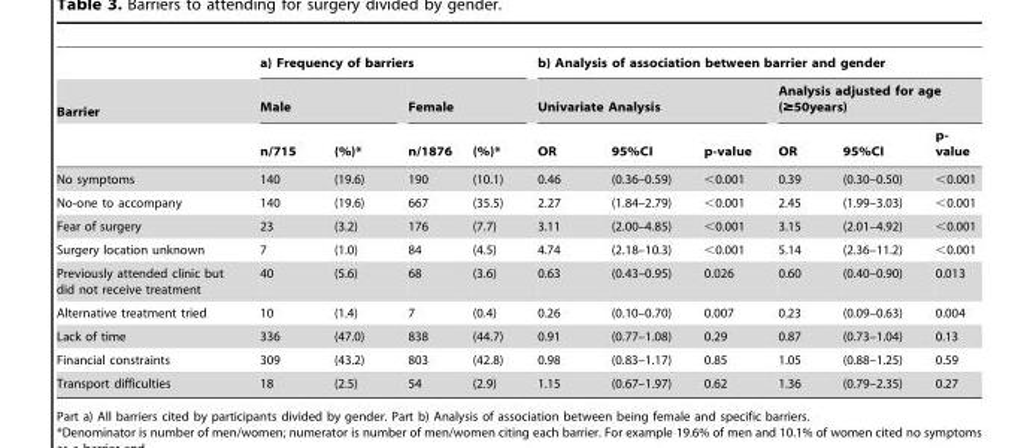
<table><thead><tr><td rowspan="3">Barrier</td><td colspan="4">a) Frequency of barriers</td><td colspan="6">b) Analysis of association between barrier and gender</td></tr><tr><td colspan="2">Male</td><td colspan="2">Female</td><td colspan="3">Univariate Analysis</td><td colspan="3">Analysis adjusted for age (≥50years)</td></tr><tr><td>n/715</td><td>(%)*</td><td>n/1876</td><td>(%)*</td><td>OR</td><td>95%CI</td><td>p-value</td><td>OR</td><td>95%CI</td><td>p- value</td></tr></thead><tbody><tr><td>No symptoms</td><td>140</td><td>(19.6)</td><td>190</td><td>(10.1)</td><td>0.46</td><td>(0.36–0.59)</td><td>&lt;0.001</td><td>0.39</td><td>(0.30–0.50)</td><td>&lt;0.001</td></tr><tr><td>No-one to accompany</td><td>140</td><td>(19.6)</td><td>667</td><td>(35.5)</td><td>2.27</td><td>(1.84–2.79)</td><td>&lt;0.001</td><td>2.45</td><td>(1.99–3.03)</td><td>&lt;0.001</td></tr><tr><td>Fear of surgery</td><td>23</td><td>(3.2)</td><td>176</td><td>(7.7)</td><td>3.11</td><td>(2.00–4.85)</td><td>&lt;0.001</td><td>3.15</td><td>(2.01–4.92)</td><td>&lt;0.001</td></tr><tr><td>Surgery location unknown</td><td>7</td><td>(1.0)</td><td>84</td><td>(4.5)</td><td>4.74</td><td>(2.18–10.3)</td><td>&lt;0.001</td><td>5.14</td><td>(2.36–11.2)</td><td>&lt;0.001</td></tr><tr><td>Previously attended clinic but did not receive treatment</td><td>40</td><td>(5.6)</td><td>68</td><td>(3.6)</td><td>0.63</td><td>(0.43–0.95)</td><td>0.026</td><td>0.60</td><td>(0.40–0.90)</td><td>0.013</td></tr><tr><td>Alternative treatment tried</td><td>10</td><td>(1.4)</td><td>7</td><td>(0.4)</td><td>0.26</td><td>(0.10–0.70)</td><td>0.007</td><td>0.23</td><td>(0.09–0.63)</td><td>0.004</td></tr><tr><td>Lack of time</td><td>336</td><td>(47.0)</td><td>838</td><td>(44.7)</td><td>0.91</td><td>(0.77–1.08)</td><td>0.29</td><td>0.87</td><td>(0.73–1.04)</td><td>0.13</td></tr><tr><td>Financial constraints</td><td>309</td><td>(43.2)</td><td>803</td><td>(42.8)</td><td>0.98</td><td>(0.83–1.17)</td><td>0.85</td><td>1.05</td><td>(0.88–1.25)</td><td>0.59</td></tr><tr><td>Transport difficulties</td><td>18</td><td>(2.5)</td><td>54</td><td>(2.9)</td><td>1.15</td><td>(0.67–1.97)</td><td>0.62</td><td>1.36</td><td>(0.79–2.35)</td><td>0.27</td></tr></tbody></table>